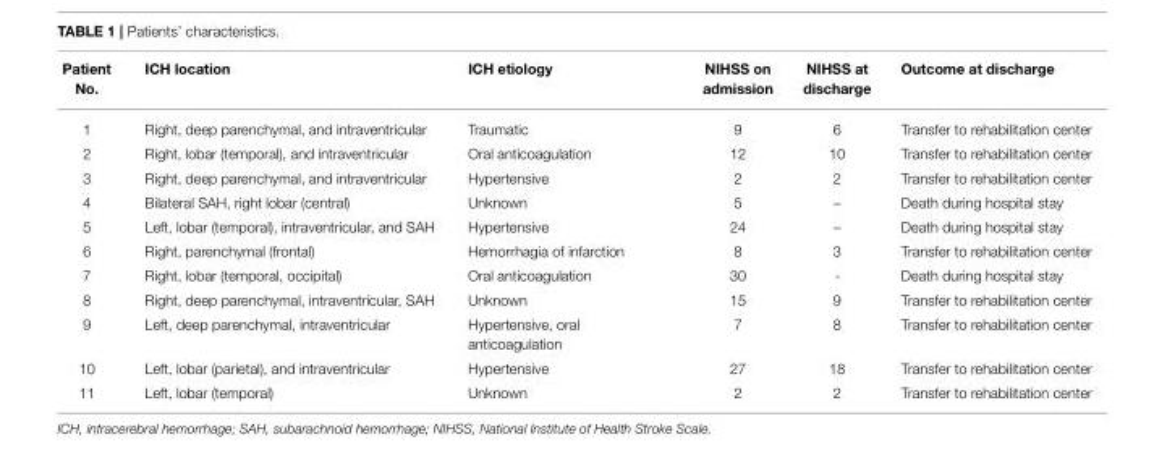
<table><thead><tr><td>Patient No.</td><td>ICH location</td><td>ICH etiology</td><td>NIHSS on admission</td><td>NIHSS at discharge</td><td>Outcome at discharge</td></tr></thead><tbody><tr><td>1</td><td>Right, deep parenchymal, and intraventricular</td><td>Traumatic</td><td>9</td><td>6</td><td>Transfer to rehabilitation center</td></tr><tr><td>2</td><td>Right, lobar (temporal), and intraventricular</td><td>Oral anticoagulation</td><td>12</td><td>10</td><td>Transfer to rehabilitation center</td></tr><tr><td>3</td><td>Right, deep parenchymal, and intraventricular</td><td>Hypertensive</td><td>2</td><td>2</td><td>Transfer to rehabilitation center</td></tr><tr><td>4</td><td>Bilateral SAH, right lobar (central)</td><td>Unknown</td><td>5</td><td>–</td><td>Death during hospital stay</td></tr><tr><td>5</td><td>Left, lobar (temporal), intraventricular, and SAH</td><td>Hypertensive</td><td>24</td><td>–</td><td>Death during hospital stay</td></tr><tr><td>6</td><td>Right, parenchymal (frontal)</td><td>Hemorrhagia of infarction</td><td>8</td><td>3</td><td>Transfer to rehabilitation center</td></tr><tr><td>7</td><td>Right, lobar (temporal, occipital)</td><td>Oral anticoagulation</td><td>30</td><td>-</td><td>Death during hospital stay</td></tr><tr><td>8</td><td>Right, deep parenchymal, intraventricular, SAH</td><td>Unknown</td><td>15</td><td>9</td><td>Transfer to rehabilitation center</td></tr><tr><td>9</td><td>Left, deep parenchymal, intraventricular</td><td>Hypertensive, oral anticoagulation</td><td>7</td><td>8</td><td>Transfer to rehabilitation center</td></tr><tr><td>10</td><td>Left, lobar (parietal), and intraventricular</td><td>Hypertensive</td><td>27</td><td>18</td><td>Transfer to rehabilitation center</td></tr><tr><td>11</td><td>Left, lobar (temporal)</td><td>Unknown</td><td>2</td><td>2</td><td>Transfer to rehabilitation center</td></tr></tbody></table>